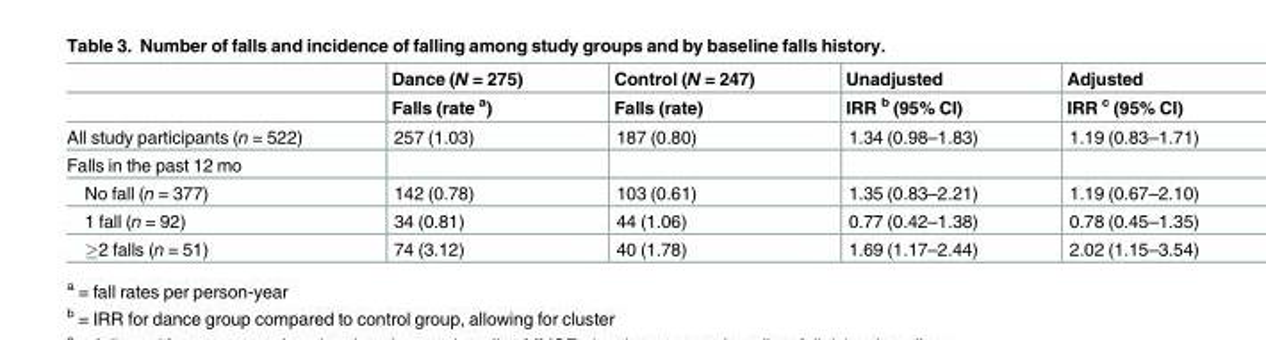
<table><thead><tr><td rowspan="2"></td><td rowspan="2">Dance (N = 275) Falls (rate <sup>a</sup>)</td><td rowspan="2">Control (N = 247) Falls (rate)</td><td rowspan="2">Unadjusted IRR <sup>b</sup> (95% CI)</td><td rowspan="2">Adjusted IRR <sup>c</sup> (95% CI)</td></tr><tr></tr></thead><tbody><tr><td>All study participants (n = 522)</td><td>257 (1.03)</td><td>187 (0.80)</td><td>1.34 (0.98–1.83)</td><td>1.19 (0.83–1.71)</td></tr><tr><td colspan="5">Falls in the past 12 mo</td></tr><tr><td>No fall (n = 377)</td><td>142 (0.78)</td><td>103 (0.61)</td><td>1.35 (0.83–2.21)</td><td>1.19 (0.67–2.10)</td></tr><tr><td>1 fall (n = 92)</td><td>34 (0.81)</td><td>44 (1.06)</td><td>0.77 (0.42–1.38)</td><td>0.78 (0.45–1.35)</td></tr><tr><td>≥2 falls (n = 51)</td><td>74 (3.12)</td><td>40 (1.78)</td><td>1.69 (1.17–2.44)</td><td>2.02 (1.15–3.54)</td></tr></tbody></table>